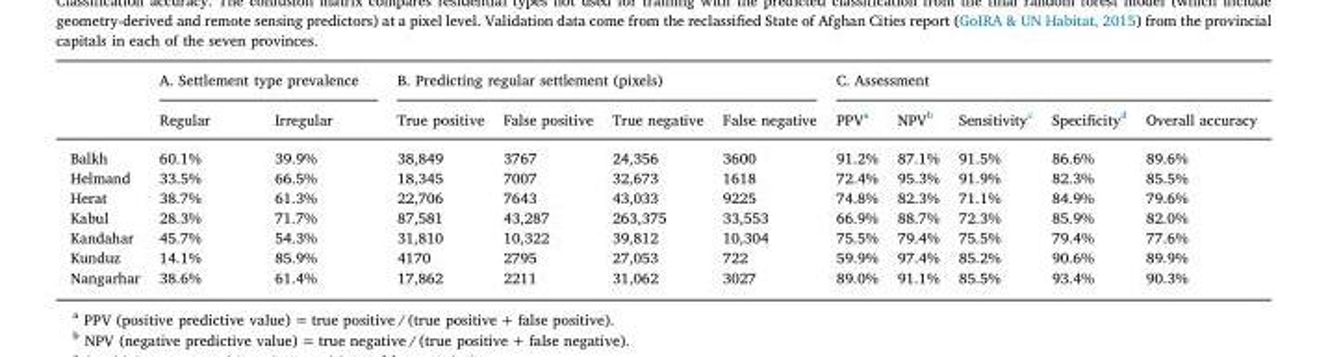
<table><thead><tr><td rowspan="2"></td><td colspan="2">A. Settlement type prevalence</td><td colspan="4">B. Predicting regular settlement (pixels)</td><td colspan="5">C. Assessment</td></tr><tr><td>Regular</td><td>Irregular</td><td>True positive</td><td>False positive</td><td>True negative</td><td>False negative</td><td>PPV<sup>a</sup></td><td>NPV<sup>b</sup></td><td>Sensitivity<sup>c</sup></td><td>Specificity<sup>d</sup></td><td>Overall accuracy</td></tr></thead><tbody><tr><td>Balkh</td><td>60.1%</td><td>39.9%</td><td>38,849</td><td>3767</td><td>24,356</td><td>3600</td><td>91.2%</td><td>87.1%</td><td>91.5%</td><td>86.6%</td><td>89.6%</td></tr><tr><td>Helmand</td><td>33.5%</td><td>66.5%</td><td>18,345</td><td>7007</td><td>32,673</td><td>1618</td><td>72.4%</td><td>95.3%</td><td>91.9%</td><td>82.3%</td><td>85.5%</td></tr><tr><td>Herat</td><td>38.7%</td><td>61.3%</td><td>22,706</td><td>7643</td><td>43,033</td><td>9225</td><td>74.8%</td><td>82.3%</td><td>71.1%</td><td>84.9%</td><td>79.6%</td></tr><tr><td>Kabul</td><td>28.3%</td><td>71.7%</td><td>87,581</td><td>43,287</td><td>263,375</td><td>33,553</td><td>66.9%</td><td>88.7%</td><td>72.3%</td><td>85.9%</td><td>82.0%</td></tr><tr><td>Kandahar</td><td>45.7%</td><td>54.3%</td><td>31,810</td><td>10,322</td><td>39,812</td><td>10,304</td><td>75.5%</td><td>79.4%</td><td>75.5%</td><td>79.4%</td><td>77.6%</td></tr><tr><td>Kunduz</td><td>14.1%</td><td>85.9%</td><td>4170</td><td>2795</td><td>27,053</td><td>722</td><td>59.9%</td><td>97.4%</td><td>85.2%</td><td>90.6%</td><td>89.9%</td></tr><tr><td>Nangarhar</td><td>38.6%</td><td>61.4%</td><td>17,862</td><td>2211</td><td>31,062</td><td>3027</td><td>89.0%</td><td>91.1%</td><td>85.5%</td><td>93.4%</td><td>90.3%</td></tr></tbody></table>